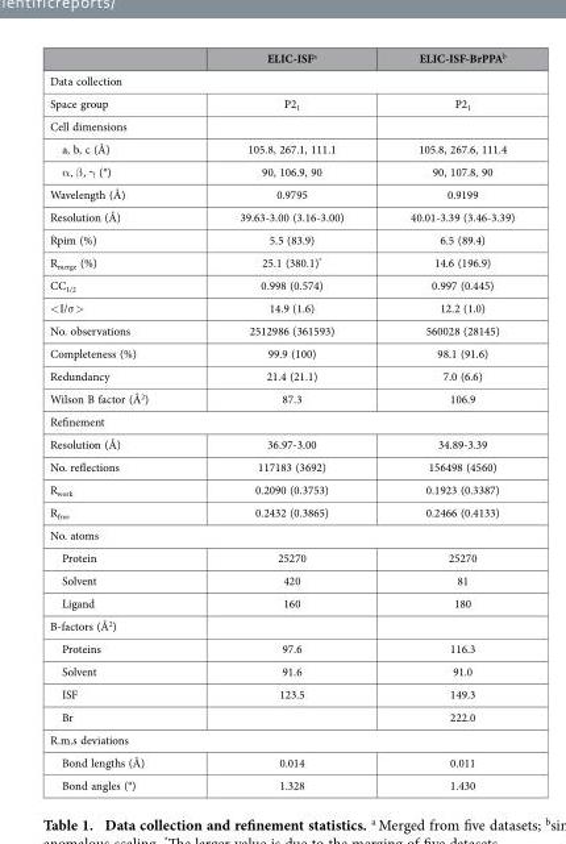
<table><thead><tr><td></td><td>ELIC-ISF<sup>a</sup></td><td>ELIC-ISF-BrPPA<sup>b</sup></td></tr></thead><tbody><tr><td colspan="3">Data collection</td></tr><tr><td>Space group</td><td>P2<sub>1</sub></td><td>P2<sub>1</sub></td></tr><tr><td colspan="3">Cell dimensions</td></tr><tr><td>a, b, c (Å)</td><td>105.8, 267.1, 111.1</td><td>105.8, 267.6, 111.4</td></tr><tr><td>α , β , γ (°)</td><td>90, 106.9, 90</td><td>90, 107.8, 90</td></tr><tr><td>Wavelength (Å)</td><td>0.9795</td><td>0.9199</td></tr><tr><td>Resolution (Å)</td><td>39.63-3.00 (3.16-3.00)</td><td>40.01-3.39 (3.46-3.39)</td></tr><tr><td>Rpim (%)</td><td>5.5 (83.9)</td><td>6.5 (89.4)</td></tr><tr><td>R<sub>merge</sub> (%)</td><td>25.1 (380.1)*</td><td>14.6 (196.9)</td></tr><tr><td>CC<sub>1/2</sub></td><td>0.998 (0.574)</td><td>0.997 (0.445)</td></tr><tr><td>&lt; I/σ &gt;</td><td>14.9 (1.6)</td><td>12.2 (1.0)</td></tr><tr><td>No. observations</td><td>2512986 (361593)</td><td>560028 (28145)</td></tr><tr><td>Completeness (%)</td><td>99.9 (100)</td><td>98.1 (91.6)</td></tr><tr><td>Redundancy</td><td>21.4 (21.1)</td><td>7.0 (6.6)</td></tr><tr><td>Wilson B factor (Å<sup>2</sup>)</td><td>87.3</td><td>106.9</td></tr><tr><td colspan="3">Refinement</td></tr><tr><td>Resolution (Å)</td><td>36.97-3.00</td><td>34.89-3.39</td></tr><tr><td>No. reflections</td><td>117183 (3692)</td><td>156498 (4560)</td></tr><tr><td>R<sub>work</sub></td><td>0.2090 (0.3753)</td><td>0.1923 (0.3387)</td></tr><tr><td>R<sub>free</sub></td><td>0.2432 (0.3865)</td><td>0.2466 (0.4133)</td></tr><tr><td colspan="3">No. atoms</td></tr><tr><td>Protein</td><td>25270</td><td>25270</td></tr><tr><td>Solvent</td><td>420</td><td>81</td></tr><tr><td>Ligand</td><td>160</td><td>180</td></tr><tr><td colspan="3">B-factors (Å<sup>2</sup>)</td></tr><tr><td>Proteins</td><td>97.6</td><td>116.3</td></tr><tr><td>Solvent</td><td>91.6</td><td>91.0</td></tr><tr><td>ISF</td><td>123.5</td><td>149.3</td></tr><tr><td>Br</td><td></td><td>222.0</td></tr><tr><td colspan="3">R.m.s deviations</td></tr><tr><td>Bond lengths (Å)</td><td>0.014</td><td>0.011</td></tr><tr><td>Bond angles (°)</td><td>1.328</td><td>1.430</td></tr></tbody></table>